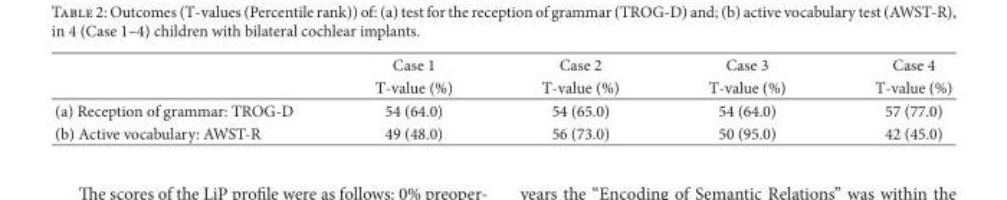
<table><thead><tr><td rowspan="2"></td><td rowspan="2">Case 1 T-value (%)</td><td rowspan="2">Case 2 T-value (%)</td><td rowspan="2">Case 3 T-value (%)</td><td rowspan="2">Case 4 T-value (%)</td></tr><tr></tr></thead><tbody><tr><td>(a) Reception of grammar: TROG-D</td><td>54 (64.0)</td><td>54 (65.0)</td><td>54 (64.0)</td><td>57 (77.0)</td></tr><tr><td>(b) Active vocabulary: AWST-R</td><td>49 (48.0)</td><td>56 (73.0)</td><td>50 (95.0)</td><td>42 (45.0)</td></tr></tbody></table>